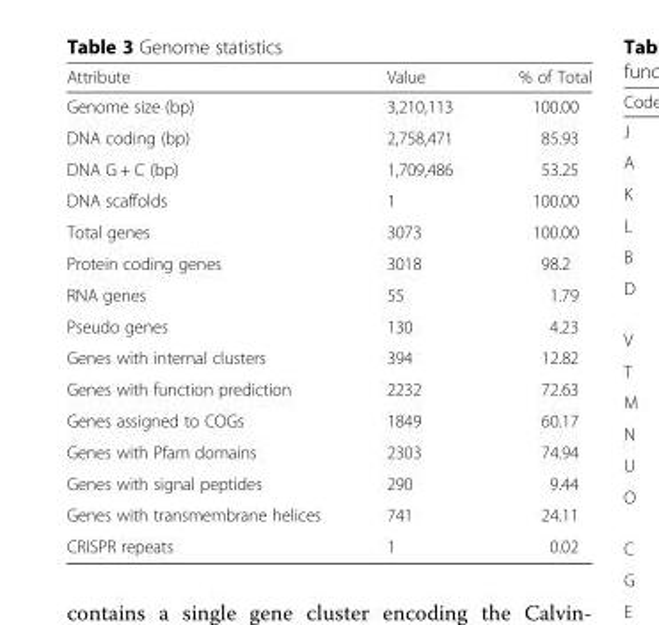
<table><thead><tr><td>Attribute</td><td>Value</td><td>% of Total</td></tr></thead><tbody><tr><td>Genome size (bp)</td><td>3,210,113</td><td>100.00</td></tr><tr><td>DNA coding (bp)</td><td>2,758,471</td><td>85.93</td></tr><tr><td>DNA G + C (bp)</td><td>1,709,486</td><td>53.25</td></tr><tr><td>DNA scaffolds</td><td>1</td><td>100.00</td></tr><tr><td>Total genes</td><td>3073</td><td>100.00</td></tr><tr><td>Protein coding genes</td><td>3018</td><td>98.2</td></tr><tr><td>RNA genes</td><td>55</td><td>1.79</td></tr><tr><td>Pseudo genes</td><td>130</td><td>4.23</td></tr><tr><td>Genes with internal clusters</td><td>394</td><td>12.82</td></tr><tr><td>Genes with function prediction</td><td>2232</td><td>72.63</td></tr><tr><td>Genes assigned to COGs</td><td>1849</td><td>60.17</td></tr><tr><td>Genes with Pfam domains</td><td>2303</td><td>74.94</td></tr><tr><td>Genes with signal peptides</td><td>290</td><td>9.44</td></tr><tr><td>Genes with transmembrane helices</td><td>741</td><td>24.11</td></tr><tr><td>CRISPR repeats</td><td>1</td><td>0.02</td></tr></tbody></table>